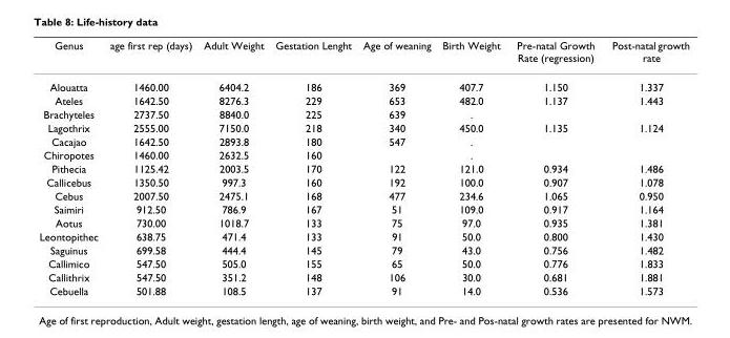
<table><thead><tr><td>Genus</td><td>age first rep (days)</td><td>Adult Weight</td><td>Gestation Lenght</td><td>Age of weaning</td><td>Birth Weight</td><td>Pre-natal Growth Rate (regression)</td><td>Post-natal growth rate</td></tr></thead><tbody><tr><td>Alouatta</td><td>1460.00</td><td>6404.2</td><td>186</td><td>369</td><td>407.7</td><td>1.150</td><td>1.337</td></tr><tr><td>Ateles</td><td>1642.50</td><td>8276.3</td><td>229</td><td>653</td><td>482.0</td><td>1.137</td><td>1.443</td></tr><tr><td>Brachyteles</td><td>2737.50</td><td>8840.0</td><td>225</td><td>639</td><td>.</td><td></td><td></td></tr><tr><td>Lagothrix</td><td>2555.00</td><td>7150.0</td><td>218</td><td>340</td><td>450.0</td><td>1.135</td><td>1.124</td></tr><tr><td>Cacajao</td><td>1642.50</td><td>2893.8</td><td>180</td><td>547</td><td>.</td><td></td><td></td></tr><tr><td>Chiropotes</td><td>1460.00</td><td>2632.5</td><td>160</td><td></td><td>.</td><td></td><td></td></tr><tr><td>Pithecia</td><td>1125.42</td><td>2003.5</td><td>170</td><td>122</td><td>121.0</td><td>0.934</td><td>1.486</td></tr><tr><td>Callicebus</td><td>1350.50</td><td>997.3</td><td>160</td><td>192</td><td>100.0</td><td>0.907</td><td>1.078</td></tr><tr><td>Cebus</td><td>2007.50</td><td>2475.1</td><td>168</td><td>477</td><td>234.6</td><td>1.065</td><td>0.950</td></tr><tr><td>Saimiri</td><td>912.50</td><td>786.9</td><td>167</td><td>51</td><td>109.0</td><td>0.917</td><td>1.164</td></tr><tr><td>Aotus</td><td>730.00</td><td>1018.7</td><td>133</td><td>75</td><td>97.0</td><td>0.935</td><td>1.381</td></tr><tr><td>Leontopithec</td><td>638.75</td><td>471.4</td><td>133</td><td>91</td><td>50.0</td><td>0.800</td><td>1.430</td></tr><tr><td>Saguinus</td><td>699.58</td><td>444.4</td><td>145</td><td>79</td><td>43.0</td><td>0.756</td><td>1.482</td></tr><tr><td>Callimico</td><td>547.50</td><td>505.0</td><td>155</td><td>65</td><td>50.0</td><td>0.776</td><td>1.833</td></tr><tr><td>Callithrix</td><td>547.50</td><td>351.2</td><td>148</td><td>106</td><td>30.0</td><td>0.681</td><td>1.881</td></tr><tr><td>Cebuella</td><td>501.88</td><td>108.5</td><td>137</td><td>91</td><td>14.0</td><td>0.536</td><td>1.573</td></tr></tbody></table>